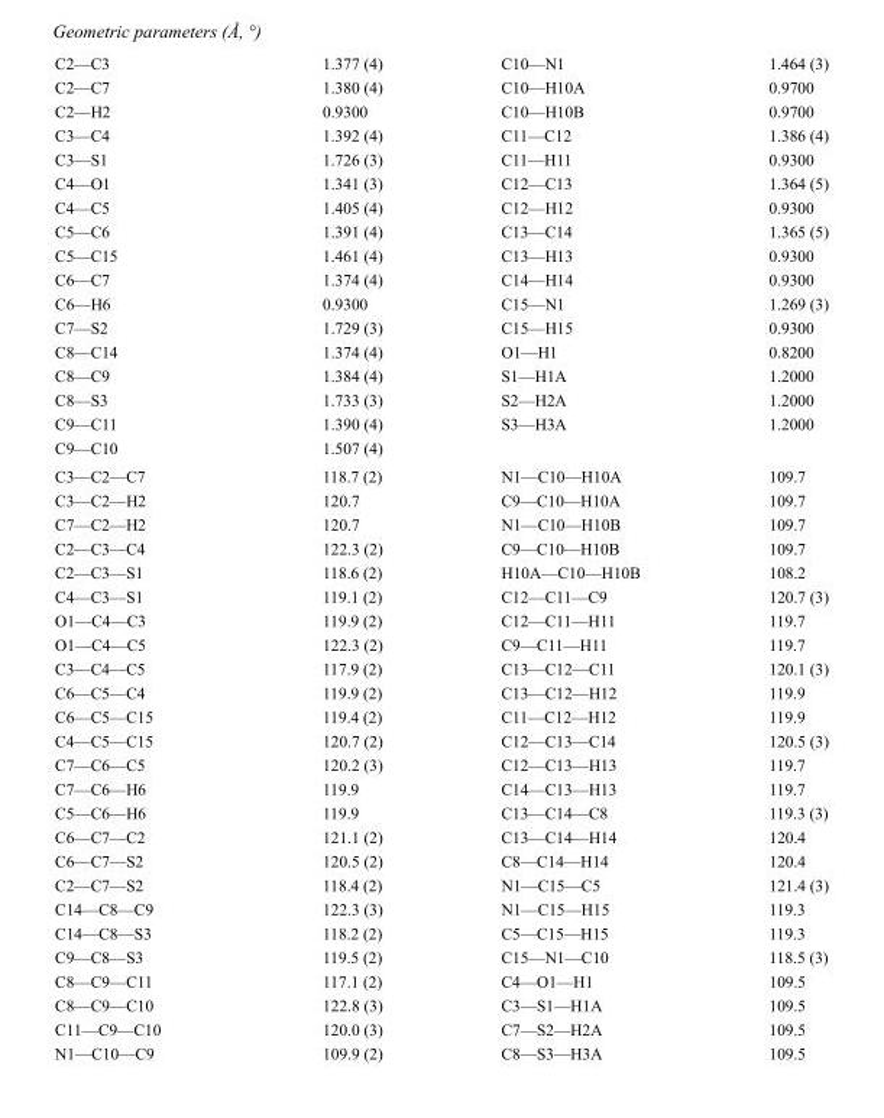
<table><tbody><tr><td>C2—C3</td><td>1.377 (4)</td><td>C10—N1</td><td>1.464 (3)</td></tr><tr><td>C2—C7</td><td>1.380 (4)</td><td>C10—H10A</td><td>0.9700</td></tr><tr><td>C2—H2</td><td>0.9300</td><td>C10—H10B</td><td>0.9700</td></tr><tr><td>C3—C4</td><td>1.392 (4)</td><td>C11—C12</td><td>1.386 (4)</td></tr><tr><td>C3—S1</td><td>1.726 (3)</td><td>C11—H11</td><td>0.9300</td></tr><tr><td>C4—O1</td><td>1.341 (3)</td><td>C12—C13</td><td>1.364 (5)</td></tr><tr><td>C4—C5</td><td>1.405 (4)</td><td>C12—H12</td><td>0.9300</td></tr><tr><td>C5—C6</td><td>1.391 (4)</td><td>C13—C14</td><td>1.365 (5)</td></tr><tr><td>C5—C15</td><td>1.461 (4)</td><td>C13—H13</td><td>0.9300</td></tr><tr><td>C6—C7</td><td>1.374 (4)</td><td>C14—H14</td><td>0.9300</td></tr><tr><td>C6—H6</td><td>0.9300</td><td>C15—N1</td><td>1.269 (3)</td></tr><tr><td>C7—S2</td><td>1.729 (3)</td><td>C15—H15</td><td>0.9300</td></tr><tr><td>C8—C14</td><td>1.374 (4)</td><td>O1—H1</td><td>0.8200</td></tr><tr><td>C8—C9</td><td>1.384 (4)</td><td>S1—H1A</td><td>1.2000</td></tr><tr><td>C8—S3</td><td>1.733 (3)</td><td>S2—H2A</td><td>1.2000</td></tr><tr><td>C9—C11</td><td>1.390 (4)</td><td>S3—H3A</td><td>1.2000</td></tr><tr><td>C9—C10</td><td>1.507 (4)</td><td></td><td></td></tr><tr><td>C3—C2—C7</td><td>118.7 (2)</td><td>N1—C10—H10A</td><td>109.7</td></tr><tr><td>C3—C2—H2</td><td>120.7</td><td>C9—C10—H10A</td><td>109.7</td></tr><tr><td>C7—C2—H2</td><td>120.7</td><td>N1—C10—H10B</td><td>109.7</td></tr><tr><td>C2—C3—C4</td><td>122.3 (2)</td><td>C9—C10—H10B</td><td>109.7</td></tr><tr><td>C2—C3—S1</td><td>118.6 (2)</td><td>H10A—C10—H10B</td><td>108.2</td></tr><tr><td>C4—C3—S1</td><td>119.1 (2)</td><td>C12—C11—C9</td><td>120.7 (3)</td></tr><tr><td>O1—C4—C3</td><td>119.9 (2)</td><td>C12—C11—H11</td><td>119.7</td></tr><tr><td>O1—C4—C5</td><td>122.3 (2)</td><td>C9—C11—H11</td><td>119.7</td></tr><tr><td>C3—C4—C5</td><td>117.9 (2)</td><td>C13—C12—C11</td><td>120.1 (3)</td></tr><tr><td>C6—C5—C4</td><td>119.9 (2)</td><td>C13—C12—H12</td><td>119.9</td></tr><tr><td>C6—C5—C15</td><td>119.4 (2)</td><td>C11—C12—H12</td><td>119.9</td></tr><tr><td>C4—C5—C15</td><td>120.7 (2)</td><td>C12—C13—C14</td><td>120.5 (3)</td></tr><tr><td>C7—C6—C5</td><td>120.2 (3)</td><td>C12—C13—H13</td><td>119.7</td></tr><tr><td>C7—C6—H6</td><td>119.9</td><td>C14—C13—H13</td><td>119.7</td></tr><tr><td>C5—C6—H6</td><td>119.9</td><td>C13—C14—C8</td><td>119.3 (3)</td></tr><tr><td>C6—C7—C2</td><td>121.1 (2)</td><td>C13—C14—H14</td><td>120.4</td></tr><tr><td>C6—C7—S2</td><td>120.5 (2)</td><td>C8—C14—H14</td><td>120.4</td></tr><tr><td>C2—C7—S2</td><td>118.4 (2)</td><td>N1—C15—C5</td><td>121.4 (3)</td></tr><tr><td>C14—C8—C9</td><td>122.3 (3)</td><td>N1—C15—H15</td><td>119.3</td></tr><tr><td>C14—C8—S3</td><td>118.2 (2)</td><td>C5—C15—H15</td><td>119.3</td></tr><tr><td>C9—C8—S3</td><td>119.5 (2)</td><td>C15—N1—C10</td><td>118.5 (3)</td></tr><tr><td>C8—C9—C11</td><td>117.1 (2)</td><td>C4—O1—H1</td><td>109.5</td></tr><tr><td>C8—C9—C10</td><td>122.8 (3)</td><td>C3—S1—H1A</td><td>109.5</td></tr><tr><td>C11—C9—C10</td><td>120.0 (3)</td><td>C7—S2—H2A</td><td>109.5</td></tr><tr><td>N1—C10—C9</td><td>109.9 (2)</td><td>C8—S3—H3A</td><td>109.5</td></tr></tbody></table>